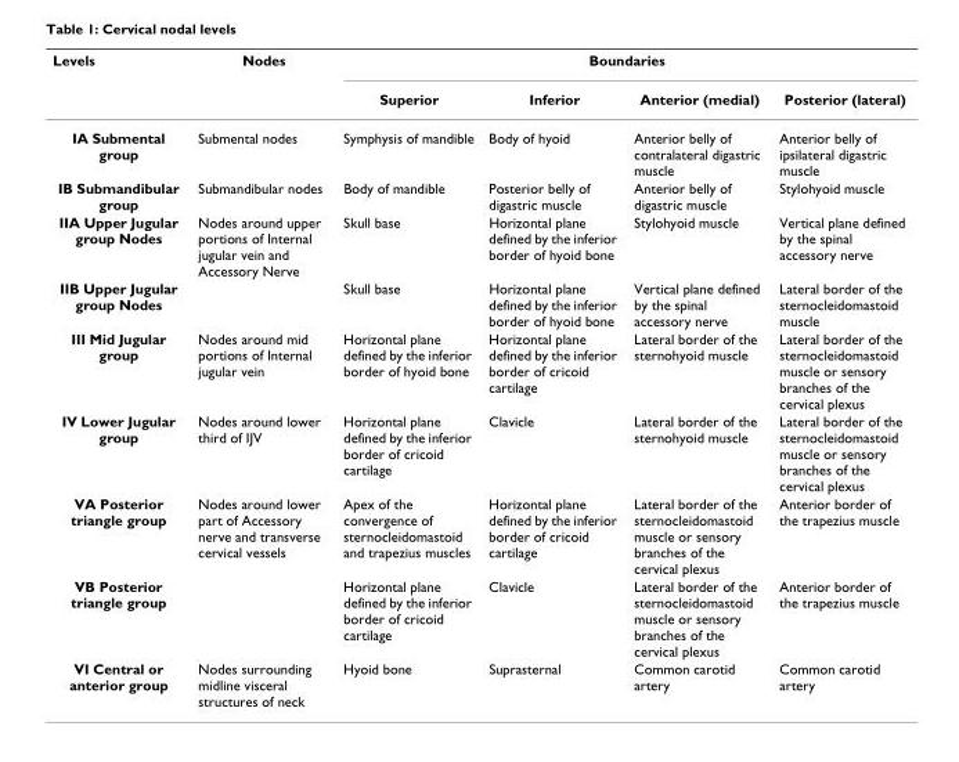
<table><thead><tr><td rowspan="2">Levels</td><td rowspan="2">Nodes</td><td colspan="4">Boundaries</td></tr><tr><td>Superior</td><td>Inferior</td><td>Anterior (medial)</td><td>Posterior (lateral)</td></tr></thead><tbody><tr><td>IA Submental group</td><td>Submental nodes</td><td>Symphysis of mandible</td><td>Body of hyoid</td><td>Anterior belly of contralateral digastric muscle</td><td>Anterior belly of ipsilateral digastric muscle</td></tr><tr><td>IB Submandibular group</td><td>Submandibular nodes</td><td>Body of mandible</td><td>Posterior belly of digastric muscle</td><td>Anterior belly of digastric muscle</td><td>Stylohyoid muscle</td></tr><tr><td>IIA Upper Jugular group Nodes</td><td>Nodes around upper portions of Internal jugular vein and Accessory Nerve</td><td>Skull base</td><td>Horizontal plane defined by the inferior border of hyoid bone</td><td>Stylohyoid muscle</td><td>Vertical plane defined by the spinal accessory nerve</td></tr><tr><td>IIB Upper Jugular group Nodes</td><td></td><td>Skull base</td><td>Horizontal plane defined by the inferior border of hyoid bone</td><td>Vertical plane defined by the spinal accessory nerve</td><td>Lateral border of the sternocleidomastoid muscle</td></tr><tr><td>III Mid Jugular group</td><td>Nodes around mid portions of Internal jugular vein</td><td>Horizontal plane defined by the inferior border of hyoid bone</td><td>Horizontal plane defined by the inferior border of cricoid cartilage</td><td>Lateral border of the sternohyoid muscle</td><td>Lateral border of the sternocleidomastoid muscle or sensory branches of the cervical plexus</td></tr><tr><td>IV Lower Jugular group</td><td>Nodes around lower third of IJV</td><td>Horizontal plane defined by the inferior border of cricoid cartilage</td><td>Clavicle</td><td>Lateral border of the sternohyoid muscle</td><td>Lateral border of the sternocleidomastoid muscle or sensory branches of the cervical plexus</td></tr><tr><td>VA Posterior triangle group</td><td>Nodes around lower part of Accessory nerve and transverse cervical vessels</td><td>Apex of the convergence of sternocleidomastoid and trapezius muscles</td><td>Horizontal plane defined by the inferior border of cricoid cartilage</td><td>Lateral border of the sternocleidomastoid muscle or sensory branches of the cervical plexus</td><td>Anterior border of the trapezius muscle</td></tr><tr><td>VB Posterior triangle group</td><td></td><td>Horizontal plane defined by the inferior border of cricoid cartilage</td><td>Clavicle</td><td>Lateral border of the sternocleidomastoid muscle or sensory branches of the cervical plexus</td><td>Anterior border of the trapezius muscle</td></tr><tr><td>VI Central or anterior group</td><td>Nodes surrounding midline visceral structures of neck</td><td>Hyoid bone</td><td>Suprasternal</td><td>Common carotid artery</td><td>Common carotid artery</td></tr></tbody></table>